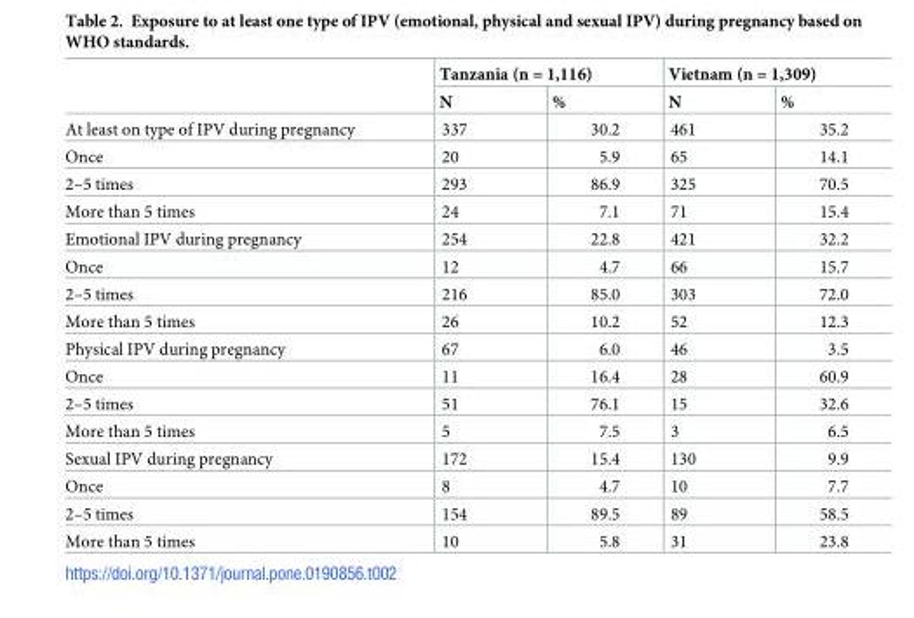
<table><thead><tr><td rowspan="2"></td><td colspan="2">Tanzania (n = 1,116)</td><td colspan="2">Vietnam (n = 1,309)</td></tr><tr><td>N</td><td>%</td><td>N</td><td>%</td></tr></thead><tbody><tr><td>At least on type of IPV during pregnancy</td><td>337</td><td>30.2</td><td>461</td><td>35.2</td></tr><tr><td>Once</td><td>20</td><td>5.9</td><td>65</td><td>14.1</td></tr><tr><td>2–5 times</td><td>293</td><td>86.9</td><td>325</td><td>70.5</td></tr><tr><td>More than 5 times</td><td>24</td><td>7.1</td><td>71</td><td>15.4</td></tr><tr><td>Emotional IPV during pregnancy</td><td>254</td><td>22.8</td><td>421</td><td>32.2</td></tr><tr><td>Once</td><td>12</td><td>4.7</td><td>66</td><td>15.7</td></tr><tr><td>2–5 times</td><td>216</td><td>85.0</td><td>303</td><td>72.0</td></tr><tr><td>More than 5 times</td><td>26</td><td>10.2</td><td>52</td><td>12.3</td></tr><tr><td>Physical IPV during pregnancy</td><td>67</td><td>6.0</td><td>46</td><td>3.5</td></tr><tr><td>Once</td><td>11</td><td>16.4</td><td>28</td><td>60.9</td></tr><tr><td>2–5 times</td><td>51</td><td>76.1</td><td>15</td><td>32.6</td></tr><tr><td>More than 5 times</td><td>5</td><td>7.5</td><td>3</td><td>6.5</td></tr><tr><td>Sexual IPV during pregnancy</td><td>172</td><td>15.4</td><td>130</td><td>9.9</td></tr><tr><td>Once</td><td>8</td><td>4.7</td><td>10</td><td>7.7</td></tr><tr><td>2–5 times</td><td>154</td><td>89.5</td><td>89</td><td>58.5</td></tr><tr><td>More than 5 times</td><td>10</td><td>5.8</td><td>31</td><td>23.8</td></tr></tbody></table>